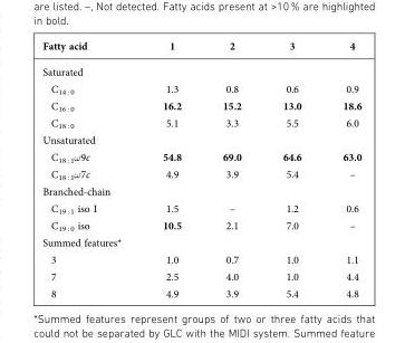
<table><thead><tr><td>Fatty acid</td><td>1</td><td>2</td><td>3</td><td>4</td></tr></thead><tbody><tr><td colspan="5">Saturated</td></tr><tr><td>C<sub>14 : 0</sub></td><td>1.3</td><td>0.8</td><td>0.6</td><td>0.9</td></tr><tr><td>C<sub>16 : 0</sub></td><td>16.2</td><td>15.2</td><td>13.0</td><td>18.6</td></tr><tr><td>C<sub>18 : 0</sub></td><td>5.1</td><td>3.3</td><td>5.5</td><td>6.0</td></tr><tr><td colspan="5">Unsaturated</td></tr><tr><td>C18 : 1!9c</td><td>54.8</td><td>69.0</td><td>64.6</td><td>63.0</td></tr><tr><td>C18 : 1!7c</td><td>4.9</td><td>3.9</td><td>5.4</td><td>–</td></tr><tr><td colspan="5">Branched-chain</td></tr><tr><td>C<sub>19 : 1</sub> iso I</td><td>1.5</td><td>–</td><td>1.2</td><td>0.6</td></tr><tr><td>C<sub>19 : 0</sub> iso</td><td>10.5</td><td>2.1</td><td>7.0</td><td>–</td></tr><tr><td colspan="5">Summed features*</td></tr><tr><td>3</td><td>1.0</td><td>0.7</td><td>1.0</td><td>1.1</td></tr><tr><td>7</td><td>2.5</td><td>4.0</td><td>1.0</td><td>4.4</td></tr><tr><td>8</td><td>4.9</td><td>3.9</td><td>5.4</td><td>4.8</td></tr></tbody></table>